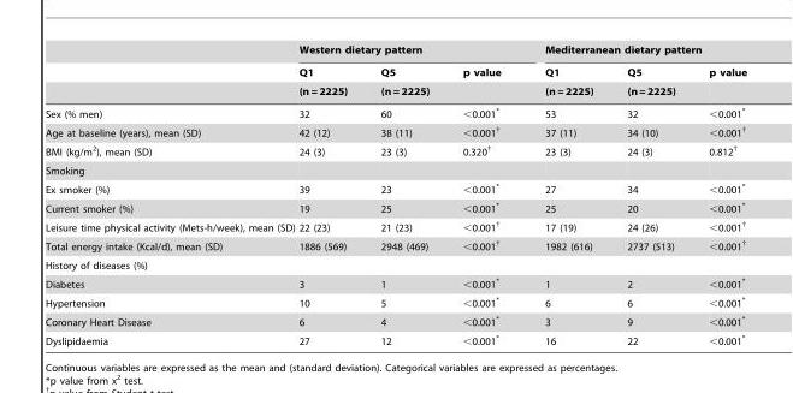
<table><thead><tr><td rowspan="3"></td><td colspan="3">Western dietary pattern</td><td colspan="3">Mediterranean dietary pattern</td></tr><tr><td rowspan="2">Q1 (n = 2225)</td><td rowspan="2">Q5 (n = 2225)</td><td rowspan="2">p value</td><td rowspan="2">Q1 (n = 2225)</td><td rowspan="2">Q5 (n = 2225)</td><td rowspan="2">p value</td></tr><tr></tr></thead><tbody><tr><td>Sex (% men)</td><td>32</td><td>60</td><td>&lt;0.001*</td><td>53</td><td>32</td><td>&lt;0.001*</td></tr><tr><td>Age at baseline (years), mean (SD)</td><td>42 (12)</td><td>38 (11)</td><td>&lt;0.001†</td><td>37 (11)</td><td>34 (10)</td><td>&lt;0.001†</td></tr><tr><td>BMI (kg/m<sup>2</sup>), mean (SD)</td><td>24 (3)</td><td>23 (3)</td><td>0.320†</td><td>23 (3)</td><td>24 (3)</td><td>0.812†</td></tr><tr><td colspan="7">Smoking</td></tr><tr><td>Ex smoker (%)</td><td>39</td><td>23</td><td>&lt;0.001*</td><td>27</td><td>34</td><td>&lt;0.001*</td></tr><tr><td>Current smoker (%)</td><td>19</td><td>25</td><td>&lt;0.001*</td><td>25</td><td>20</td><td>&lt;0.001*</td></tr><tr><td>Leisure time physical activity (Mets-h/week), mean (SD)</td><td>22 (23)</td><td>21 (23)</td><td>&lt;0.001†</td><td>17 (19)</td><td>24 (26)</td><td>&lt;0.001†</td></tr><tr><td>Total energy intake (Kcal/d), mean (SD)</td><td>1886 (569)</td><td>2948 (469)</td><td>&lt;0.001†</td><td>1982 (616)</td><td>2737 (513)</td><td>&lt;0.001†</td></tr><tr><td colspan="7">History of diseases (%)</td></tr><tr><td>Diabetes</td><td>3</td><td>1</td><td>&lt;0.001*</td><td>1</td><td>2</td><td>&lt;0.001*</td></tr><tr><td>Hypertension</td><td>10</td><td>5</td><td>&lt;0.001*</td><td>6</td><td>6</td><td>&lt;0.001*</td></tr><tr><td>Coronary Heart Disease</td><td>6</td><td>4</td><td>&lt;0.001*</td><td>3</td><td>9</td><td>&lt;0.001*</td></tr><tr><td>Dyslipidaemia</td><td>27</td><td>12</td><td>&lt;0.001*</td><td>16</td><td>22</td><td>&lt;0.001*</td></tr></tbody></table>